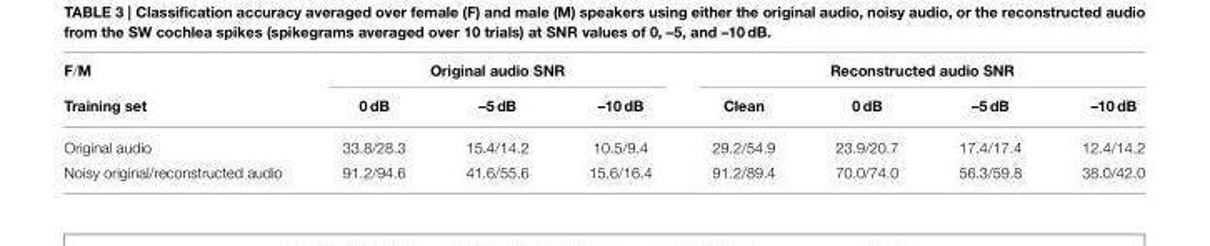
<table><thead><tr><td rowspan="2">F/M Training set</td><td colspan="3">Original audio SNR</td><td colspan="4">Reconstructed audio SNR</td></tr><tr><td>0 dB</td><td>–5 dB</td><td>–10 dB</td><td>Clean</td><td>0 dB</td><td>–5 dB</td><td>–10 dB</td></tr></thead><tbody><tr><td>Original audio</td><td>33.8/28.3</td><td>15.4/14.2</td><td>10.5/9.4</td><td>29.2/54.9</td><td>23.9/20.7</td><td>17.4/17.4</td><td>12.4/14.2</td></tr><tr><td>Noisy original/reconstructed audio</td><td>91.2/94.6</td><td>41.6/55.6</td><td>15.6/16.4</td><td>91.2/89.4</td><td>70.0/74.0</td><td>56.3/59.8</td><td>38.0/42.0</td></tr></tbody></table>